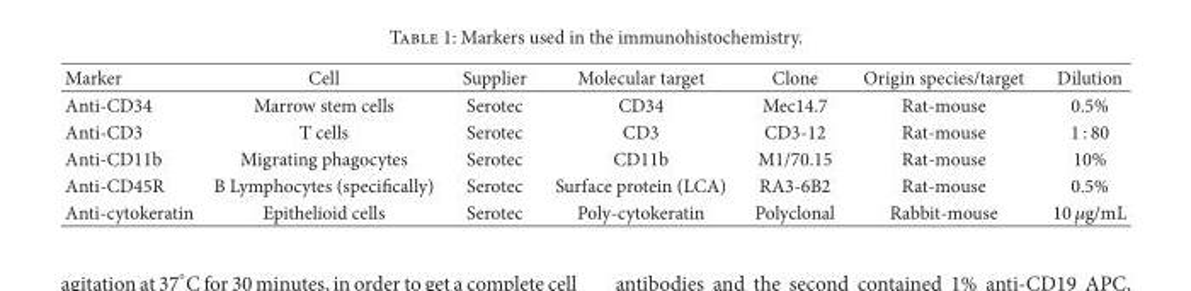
<table><thead><tr><td>Marker</td><td>Cell</td><td>Supplier</td><td>Molecular target</td><td>Clone</td><td>Origin species/target</td><td>Dilution</td></tr></thead><tbody><tr><td>Anti-CD34</td><td>Marrow stem cells</td><td>Serotec</td><td>CD34</td><td>Mec14.7</td><td>Rat-mouse</td><td>0.5%</td></tr><tr><td>Anti-CD3</td><td>T cells</td><td>Serotec</td><td>CD3</td><td>CD3-12</td><td>Rat-mouse</td><td>1 : 80</td></tr><tr><td>Anti-CD11b</td><td>Migrating phagocytes</td><td>Serotec</td><td>CD11b</td><td>M1/70.15</td><td>Rat-mouse</td><td>10%</td></tr><tr><td>Anti-CD45R</td><td>B Lymphocytes (speci�cally)</td><td>Serotec</td><td>Surface protein (LCA)</td><td>RA3-6B2</td><td>Rat-mouse</td><td>0.5%</td></tr><tr><td>Anti-cytokeratin</td><td>Epithelioid cells</td><td>Serotec</td><td>Poly-cytokeratin</td><td>Polyclonal</td><td>Rabbit-mouse</td><td>10 𝜇𝜇g/mL</td></tr></tbody></table>